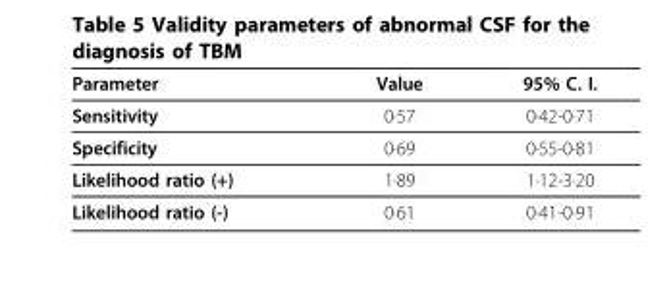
<table><thead><tr><td>Parameter</td><td>Value</td><td>95% C. I.</td></tr></thead><tbody><tr><td>Sensitivity</td><td>0·57</td><td>0·42-0·71</td></tr><tr><td>Specificity</td><td>0·69</td><td>0·55-0·81</td></tr><tr><td>Likelihood ratio (+)</td><td>1·89</td><td>1·12-3·20</td></tr><tr><td>Likelihood ratio (-)</td><td>0·61</td><td>0·41-0·91</td></tr></tbody></table>